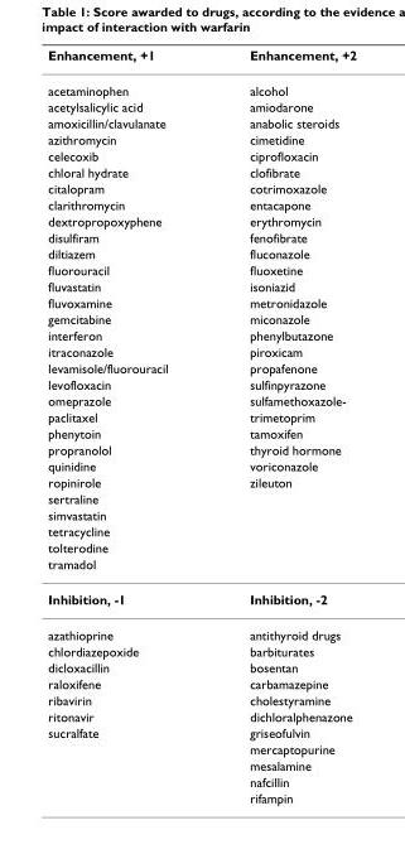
<table><thead><tr><td>Enhancement, +1</td><td>Enhancement, +2</td></tr></thead><tbody><tr><td>acetaminophen</td><td>alcohol</td></tr><tr><td>acetylsalicylic acid</td><td>amiodarone</td></tr><tr><td>amoxicillin/clavulanate</td><td>anabolic steroids</td></tr><tr><td>azithromycin</td><td>cimetidine</td></tr><tr><td>celecoxib</td><td>ciprofloxacin</td></tr><tr><td>chloral hydrate</td><td>clofibrate</td></tr><tr><td>citalopram</td><td>cotrimoxazole</td></tr><tr><td>clarithromycin</td><td>entacapone</td></tr><tr><td>dextropropoxyphene</td><td>erythromycin</td></tr><tr><td>disulfiram</td><td>fenofibrate</td></tr><tr><td>diltiazem</td><td>fluconazole</td></tr><tr><td>fluorouracil</td><td>fluoxetine</td></tr><tr><td>fluvastatin</td><td>isoniazid</td></tr><tr><td>fluvoxamine</td><td>metronidazole</td></tr><tr><td>gemcitabine</td><td>miconazole</td></tr><tr><td>interferon</td><td>phenylbutazone</td></tr><tr><td>itraconazole</td><td>piroxicam</td></tr><tr><td>levamisole/fluorouracil</td><td>propafenone</td></tr><tr><td>levofloxacin</td><td>sulfinpyrazone</td></tr><tr><td>omeprazole</td><td>sulfamethoxazole-</td></tr><tr><td>paclitaxel</td><td>trimetoprim</td></tr><tr><td>phenytoin</td><td>tamoxifen</td></tr><tr><td>propranolol</td><td>thyroid hormone</td></tr><tr><td>quinidine</td><td>voriconazole</td></tr><tr><td>ropinirole</td><td>zileuton</td></tr><tr><td colspan="2">sertraline</td></tr><tr><td colspan="2">simvastatin</td></tr><tr><td colspan="2">tetracycline</td></tr><tr><td colspan="2">tolterodine</td></tr><tr><td colspan="2">tramadol</td></tr><tr><td>Inhibition, -1</td><td>Inhibition, -2</td></tr><tr><td>azathioprine</td><td>antithyroid drugs</td></tr><tr><td>chlordiazepoxide</td><td>barbiturates</td></tr><tr><td>dicloxacillin</td><td>bosentan</td></tr><tr><td>raloxifene</td><td>carbamazepine</td></tr><tr><td>ribavirin</td><td>cholestyramine</td></tr><tr><td>ritonavir</td><td>dichloralphenazone</td></tr><tr><td rowspan="5">sucralfate</td><td>griseofulvin</td></tr><tr><td>mercaptopurine</td></tr><tr><td>mesalamine</td></tr><tr><td>nafcillin</td></tr><tr><td>rifampin</td></tr></tbody></table>